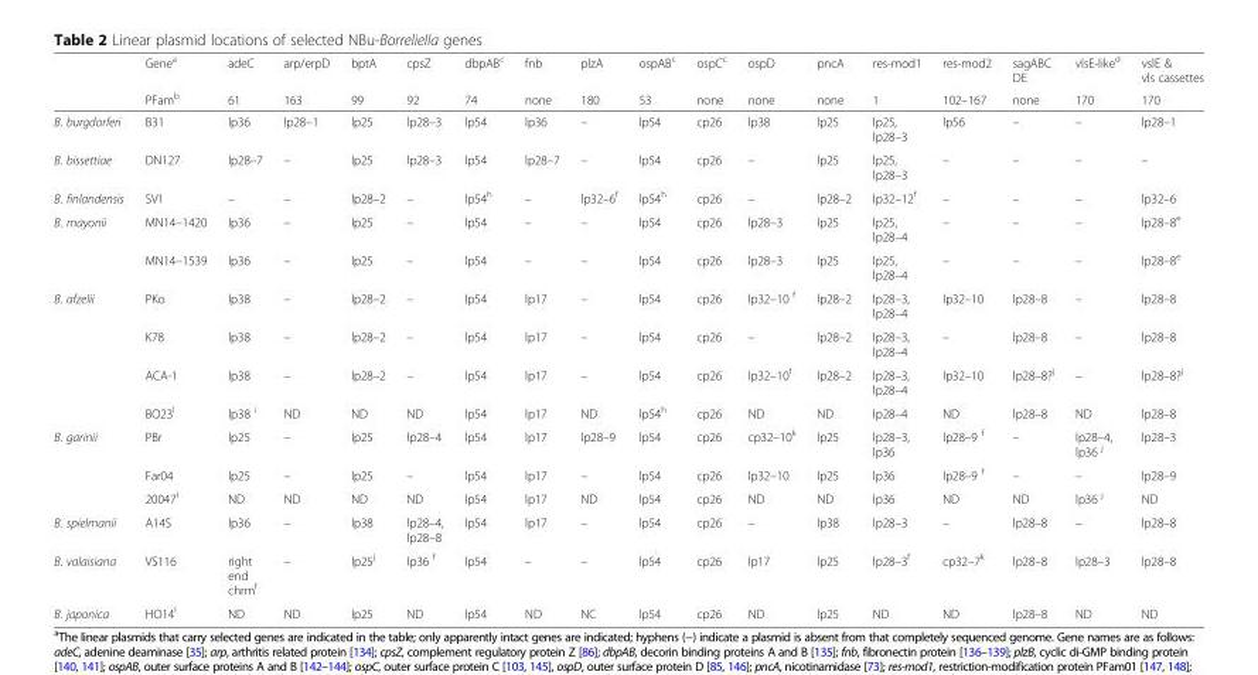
<table><thead><tr><td rowspan="2"></td><td rowspan="2">Gene<sup>a</sup> PFam<sup>b</sup></td><td rowspan="2">adeC 61</td><td rowspan="2">arp/erpD 163</td><td rowspan="2">bptA 99</td><td rowspan="2">cpsZ 92</td><td rowspan="2">dbpAB<sup>c</sup> 74</td><td rowspan="2">fnb none</td><td rowspan="2">plzA 180</td><td rowspan="2">ospAB<sup>c</sup> 53</td><td rowspan="2">ospC<sup>c</sup> none</td><td rowspan="2">ospD none</td><td rowspan="2">pncA none</td><td rowspan="2">res-mod1 1</td><td rowspan="2">res-mod2 102–167</td><td rowspan="2">sagABC DE none</td><td rowspan="2">vlsE-like<sup>d</sup> 170</td><td rowspan="2">vslE &amp; vls cassettes 170</td></tr><tr></tr></thead><tbody><tr><td>B. burgdorferi</td><td>B31</td><td>lp36</td><td>lp28–1</td><td>lp25</td><td>lp28–3</td><td>lp54</td><td>lp36</td><td>–</td><td>lp54</td><td>cp26</td><td>lp38</td><td>lp25</td><td>lp25, lp28–3</td><td>lp56</td><td>–</td><td>–</td><td>lp28–1</td></tr><tr><td>B. bissettiae</td><td>DN127</td><td>lp28–7</td><td>–</td><td>lp25</td><td>lp28–3</td><td>lp54</td><td>lp28–7</td><td>–</td><td>lp54</td><td>cp26</td><td>–</td><td>lp25</td><td>lp25, lp28–3</td><td>–</td><td>–</td><td>–</td><td>–</td></tr><tr><td>B. finlandensis</td><td>SV1</td><td>–</td><td>–</td><td>lp28–2</td><td>–</td><td>lp54<sup>h</sup></td><td>–</td><td>lp32–6<sup>f</sup></td><td>lp54<sup>h</sup></td><td>cp26</td><td>–</td><td>lp28–2</td><td>lp32–12<sup>f</sup></td><td>–</td><td>–</td><td>–</td><td>lp32–6</td></tr><tr><td rowspan="2">B. mayonii</td><td>MN14–1420</td><td>lp36</td><td>–</td><td>lp25</td><td>–</td><td>lp54</td><td>–</td><td>–</td><td>lp54</td><td>cp26</td><td>lp28–3</td><td>lp25</td><td>lp25, lp28–4</td><td>–</td><td>–</td><td>–</td><td>lp28–8<sup>e</sup></td></tr><tr><td>MN14–1539</td><td>lp36</td><td>–</td><td>lp25</td><td>–</td><td>lp54</td><td>–</td><td>–</td><td>lp54</td><td>cp26</td><td>lp28–3</td><td>lp25</td><td>lp25, lp28–4</td><td>–</td><td>–</td><td>–</td><td>lp28–8<sup>e</sup></td></tr><tr><td rowspan="4">B. afzelii</td><td>PKo</td><td>lp38</td><td>–</td><td>lp28–2</td><td>–</td><td>lp54</td><td>lp17</td><td>–</td><td>lp54</td><td>cp26</td><td>lp32–10 <sup>f</sup></td><td>lp28–2</td><td>lp28–3, lp28–4</td><td>lp32–10</td><td>lp28–8</td><td>–</td><td>lp28–8</td></tr><tr><td>K78</td><td>lp38</td><td>–</td><td>lp28–2</td><td>–</td><td>lp54</td><td>lp17</td><td>–</td><td>lp54</td><td>cp26</td><td>–</td><td>lp28–2</td><td>lp28–3, lp28–4</td><td>–</td><td>lp28–8</td><td>–</td><td>lp28–8</td></tr><tr><td>ACA-1</td><td>lp38</td><td>–</td><td>lp28–2</td><td>–</td><td>lp54</td><td>lp17</td><td>–</td><td>lp54</td><td>cp26</td><td>lp32–10<sup>f</sup></td><td>lp28–2</td><td>lp28–3, lp28–4</td><td>lp32–10</td><td>lp28–8?<sup>j</sup></td><td>–</td><td>lp28–8?<sup>j</sup></td></tr><tr><td>BO23<sup>l</sup></td><td>lp38 <sup>i</sup></td><td>ND</td><td>ND</td><td>ND</td><td>lp54</td><td>lp17</td><td>ND</td><td>lp54<sup>h</sup></td><td>cp26</td><td>ND</td><td>ND</td><td>lp28–4</td><td>ND</td><td>lp28–8</td><td>ND</td><td>lp28–8</td></tr><tr><td rowspan="3">B. garinii</td><td>PBr</td><td>lp25</td><td>–</td><td>lp25</td><td>lp28–4</td><td>lp54</td><td>lp17</td><td>lp28–9</td><td>lp54</td><td>cp26</td><td>cp32–10<sup>k</sup></td><td>lp25</td><td>lp28–3, lp36</td><td>lp28–9 <sup>f</sup></td><td>–</td><td>lp28–4, lp36 <sup>j</sup></td><td>lp28–3</td></tr><tr><td>Far04</td><td>lp25</td><td>–</td><td>lp25</td><td>–</td><td>lp54</td><td>lp17</td><td>–</td><td>lp54</td><td>cp26</td><td>lp32–10</td><td>lp25</td><td>lp36</td><td>lp28–9 <sup>f</sup></td><td>–</td><td>–</td><td>lp28–9</td></tr><tr><td>20047<sup>l</sup></td><td>ND</td><td>ND</td><td>ND</td><td>ND</td><td>lp54</td><td>lp17</td><td>ND</td><td>lp54</td><td>cp26</td><td>ND</td><td>ND</td><td>lp36</td><td>ND</td><td>ND</td><td>lp36 <sup>j</sup></td><td>ND</td></tr><tr><td>B. spielmanii</td><td>A14S</td><td>lp36</td><td>–</td><td>lp38</td><td>lp28–4, lp28–8</td><td>lp54</td><td>lp17</td><td>–</td><td>lp54</td><td>cp26</td><td>–</td><td>lp38</td><td>lp28–3</td><td>–</td><td>lp28–8</td><td>–</td><td>lp28–8</td></tr><tr><td>B. valaisiana</td><td>VS116</td><td>right end chrm<sup>f</sup></td><td>–</td><td>lp25<sup>j</sup></td><td>lp36 <sup>f</sup></td><td>lp54</td><td>–</td><td>–</td><td>lp54</td><td>cp26</td><td>lp17</td><td>lp25</td><td>lp28–3<sup>f</sup></td><td>cp32–7<sup>k</sup></td><td>lp28–8</td><td>lp28–3</td><td>lp28–8</td></tr><tr><td>B. japonica</td><td>HO14<sup>l</sup></td><td>ND</td><td>ND</td><td>lp25</td><td>ND</td><td>lp54</td><td>ND</td><td>NC</td><td>lp54</td><td>cp26</td><td>ND</td><td>lp25</td><td>ND</td><td>ND</td><td>lp28–8</td><td>ND</td><td>ND</td></tr></tbody></table>